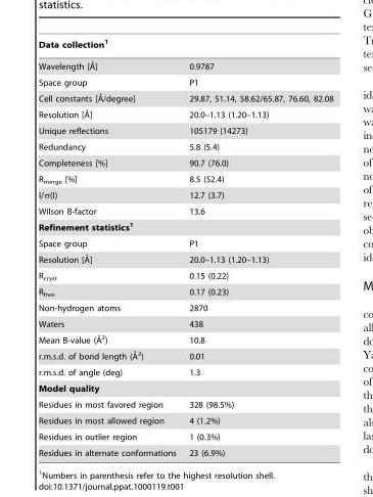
<table><thead><tr><td colspan="2">Data collection<sup>1</sup></td></tr><tr><td>Wavelength [A˚]</td><td>0.9787</td></tr></thead><tbody><tr><td>Space group</td><td>P1</td></tr><tr><td>Cell constants [A˚/degree]</td><td>29.87, 51.14, 58.62/65.87, 76.60, 82.08</td></tr><tr><td>Resolution [A˚]</td><td>20.0–1.13 (1.20–1.13)</td></tr><tr><td>Unique reflections</td><td>105179 (14273)</td></tr><tr><td>Redundancy</td><td>5.8 (5.4)</td></tr><tr><td>Completeness [%]</td><td>90.7 (76.0)</td></tr><tr><td>R<sub>merge</sub> [%]</td><td>8.5 (52.4)</td></tr><tr><td>I/σ(I)</td><td>12.7 (3.7)</td></tr><tr><td>Wilson B-factor</td><td>13.6</td></tr><tr><td colspan="2">Refinement statistics1</td></tr><tr><td>Space group</td><td>P1</td></tr><tr><td>Resolution [A˚]</td><td>20.0–1.13 (1.20–1.13)</td></tr><tr><td>R<sub>cryst</sub></td><td>0.15 (0.22)</td></tr><tr><td>R<sub>free</sub></td><td>0.17 (0.23)</td></tr><tr><td>Non-hydrogen atoms</td><td>2870</td></tr><tr><td>Waters</td><td>438</td></tr><tr><td>Mean B-value (A˚2)</td><td>10.8</td></tr><tr><td>r.m.s.d. of bond length (A˚2)</td><td>0.01</td></tr><tr><td>r.m.s.d. of angle (deg)</td><td>1.3</td></tr><tr><td colspan="2">Model quality</td></tr><tr><td>Residues in most favored region</td><td>328 (98.5%)</td></tr><tr><td>Residues in most allowed region</td><td>4 (1.2%)</td></tr><tr><td>Residues in outlier region</td><td>1 (0.3%)</td></tr><tr><td>Residues in alternate conformations</td><td>23 (6.9%)</td></tr></tbody></table>